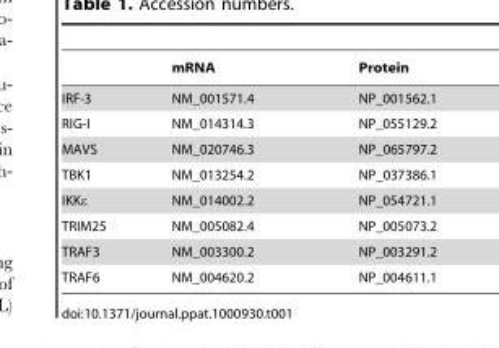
<table><thead><tr><td></td><td>mRNA</td><td>Protein</td></tr></thead><tbody><tr><td>IRF-3</td><td>NM_001571.4</td><td>NP_001562.1</td></tr><tr><td>RIG-I</td><td>NM_014314.3</td><td>NP_055129.2</td></tr><tr><td>MAVS</td><td>NM_020746.3</td><td>NP_065797.2</td></tr><tr><td>TBK1</td><td>NM_013254.2</td><td>NP_037386.1</td></tr><tr><td>IKKε</td><td>NM_014002.2</td><td>NP_054721.1</td></tr><tr><td>TRIM25</td><td>NM_005082.4</td><td>NP_005073.2</td></tr><tr><td>TRAF3</td><td>NM_003300.2</td><td>NP_003291.2</td></tr><tr><td>TRAF6</td><td>NM_004620.2</td><td>NP_004611.1</td></tr></tbody></table>